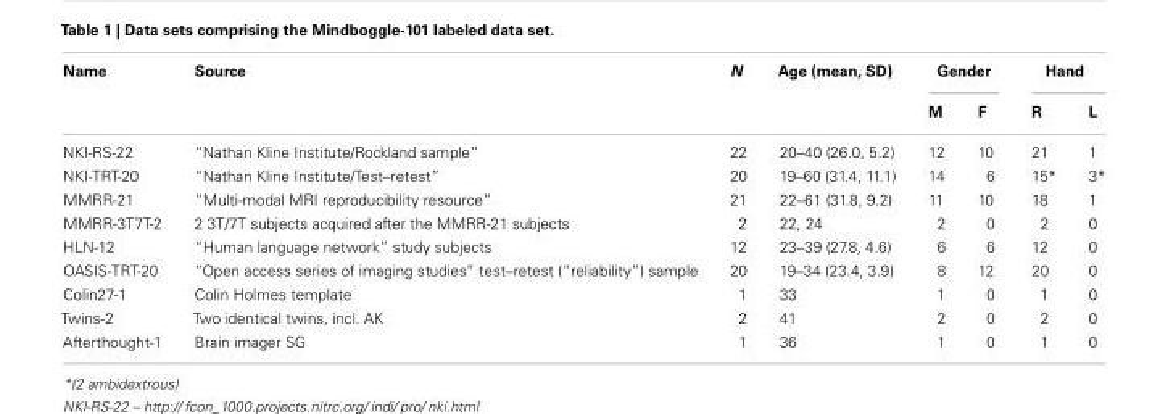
<table><thead><tr><td rowspan="2">Name</td><td rowspan="2">Source</td><td rowspan="2">N</td><td rowspan="2">Age (mean, SD)</td><td colspan="2">Gender</td><td colspan="2">Hand</td></tr><tr><td>M</td><td>F</td><td>R</td><td>L</td></tr></thead><tbody><tr><td>NKI-RS-22</td><td>“Nathan Kline Institute/Rockland sample”</td><td>22</td><td>20–40 (26.0, 5.2)</td><td>12</td><td>10</td><td>21</td><td>1</td></tr><tr><td>NKI-TRT-20</td><td>“Nathan Kline Institute/Test–retest”</td><td>20</td><td>19–60 (31.4, 11.1)</td><td>14</td><td>6</td><td>15*</td><td>3*</td></tr><tr><td>MMRR-21</td><td>“Multi-modal MRI reproducibility resource”</td><td>21</td><td>22–61 (31.8, 9.2)</td><td>11</td><td>10</td><td>18</td><td>1</td></tr><tr><td>MMRR-3T7T-2</td><td>2 3T/7T subjects acquired after the MMRR-21 subjects</td><td>2</td><td>22, 24</td><td>2</td><td>0</td><td>2</td><td>0</td></tr><tr><td>HLN-12</td><td>“Human language network” study subjects</td><td>12</td><td>23–39 (27.8, 4.6)</td><td>6</td><td>6</td><td>12</td><td>0</td></tr><tr><td>OASIS-TRT-20</td><td>“Open access series of imaging studies” test–retest (“reliability”) sample</td><td>20</td><td>19–34 (23.4, 3.9)</td><td>8</td><td>12</td><td>20</td><td>0</td></tr><tr><td>Colin27-1</td><td>Colin Holmes template</td><td>1</td><td>33</td><td>1</td><td>0</td><td>1</td><td>0</td></tr><tr><td>Twins-2</td><td>Two identical twins, incl. AK</td><td>2</td><td>41</td><td>2</td><td>0</td><td>2</td><td>0</td></tr><tr><td>Afterthought-1</td><td>Brain imager SG</td><td>1</td><td>36</td><td>1</td><td>0</td><td>1</td><td>0</td></tr></tbody></table>